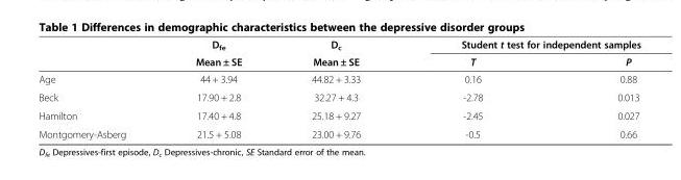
<table><thead><tr><td rowspan="2"></td><td rowspan="2">D<sub>fe</sub> Mean ± SE</td><td rowspan="2">D<sub>c</sub> Mean ± SE</td><td colspan="2">Student t test for independent samples</td></tr><tr><td>T</td><td>P</td></tr></thead><tbody><tr><td>Age</td><td>44 + 3.94</td><td>44.82 + 3.33</td><td>0.16</td><td>0.88</td></tr><tr><td>Beck</td><td>17.90 + 2.8</td><td>32.27 + 4.3</td><td>-2.78</td><td>0.013</td></tr><tr><td>Hamilton</td><td>17.40 + 4.8</td><td>25.18 + 9.27</td><td>-2.45</td><td>0.027</td></tr><tr><td>Montgomery-Asberg</td><td>21.5 + 5.08</td><td>23.00 + 9.76</td><td>-0.5</td><td>0.66</td></tr></tbody></table>